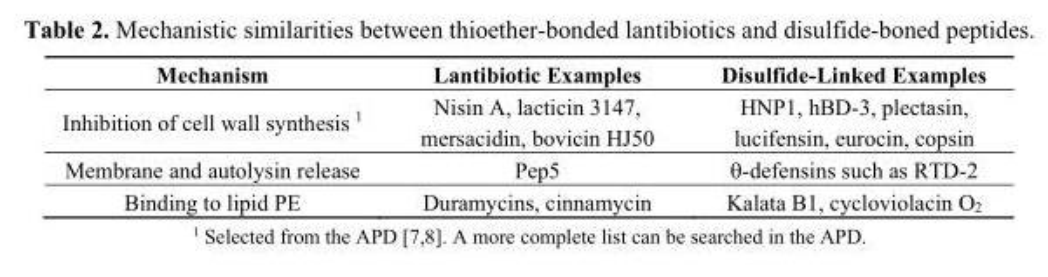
<table><thead><tr><td>Mechanism</td><td>Lantibiotic Examples</td><td>Disulfide-Linked Examples</td></tr></thead><tbody><tr><td>Inhibition of cell wall synthesis <sup>1</sup></td><td>Nisin A, lacticin 3147, mersacidin, bovicin HJ50</td><td>HNP1, hBD-3, plectasin, lucifensin, eurocin, copsin</td></tr><tr><td>Membrane and autolysin release</td><td>Pep5</td><td>θ-defensins such as RTD-2</td></tr><tr><td>Binding to lipid PE</td><td>Duramycins, cinnamycin</td><td>Kalata B1, cycloviolacin O<sub>2</sub></td></tr></tbody></table>